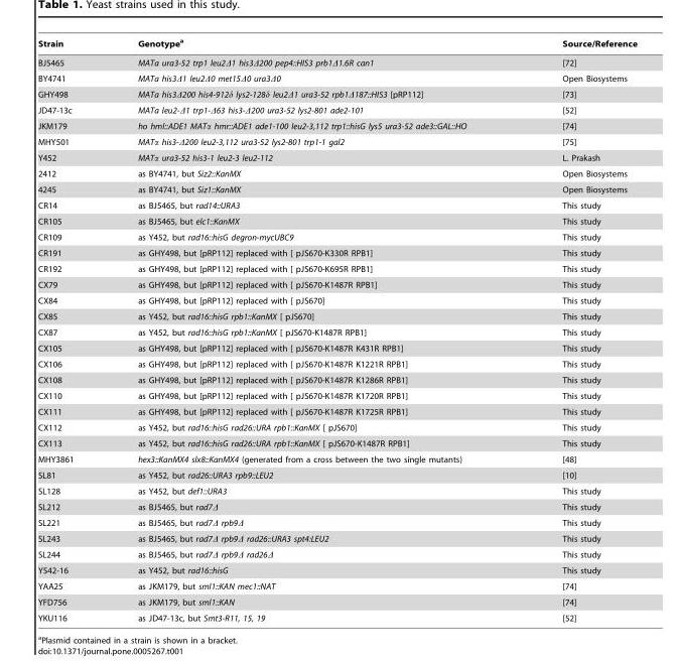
<table><thead><tr><td>Strain</td><td>Genotype<sup>a</sup></td><td>Source/Reference</td></tr></thead><tbody><tr><td>BJ5465</td><td>MATa ura3-52 trp1 leu2Δ1 his3Δ200 pep4::HIS3 prb1Δ1.6R can1</td><td>[72]</td></tr><tr><td>BY4741</td><td>MATa his3Δ1 leu2Δ0 met15Δ0 ura3Δ0</td><td>Open Biosystems</td></tr><tr><td>GHY498</td><td>MATa his3Δ200 his4-912δ lys2-128δ leu2Δ1 ura3-52 rpb1Δ187::HIS3 [pRP112]</td><td>[73]</td></tr><tr><td>JD47-13c</td><td>MATa leu2-Δ1 trp1-Δ63 his3-Δ200 ura3-52 lys2-801 ade2-101</td><td>[52]</td></tr><tr><td>JKM179</td><td>ho hml::ADE1 MATα hmr::ADE1 ade1-100 leu2-3,112 trp1::hisG lys5 ura3-52 ade3::GAL::HO</td><td>[74]</td></tr><tr><td>MHY501</td><td>MATα his3-Δ200 leu2-3,112 ura3-52 lys2-801 trp1-1 gal2</td><td>[75]</td></tr><tr><td>Y452</td><td>MATα ura3-52 his3-1 leu2-3 leu2-112</td><td>L. Prakash</td></tr><tr><td>2412</td><td>as BY4741, but Siz2::KanMX</td><td>Open Biosystems</td></tr><tr><td>4245</td><td>as BY4741, but Siz1::KanMX</td><td>Open Biosystems</td></tr><tr><td>CR14</td><td>as BJ5465, but rad14::URA3</td><td>This study</td></tr><tr><td>CR105</td><td>as BJ5465, but elc1::KanMX</td><td>This study</td></tr><tr><td>CR109</td><td>as Y452, but rad16::hisG degron-mycUBC9</td><td>This study</td></tr><tr><td>CR191</td><td>as GHY498, but [pRP112] replaced with [ pJS670-K330R RPB1]</td><td>This study</td></tr><tr><td>CR192</td><td>as GHY498, but [pRP112] replaced with [ pJS670-K695R RPB1]</td><td>This study</td></tr><tr><td>CX79</td><td>as GHY498, but [pRP112] replaced with [ pJS670-K1487R RPB1]</td><td>This study</td></tr><tr><td>CX84</td><td>as GHY498, but [pRP112] replaced with [ pJS670]</td><td>This study</td></tr><tr><td>CX85</td><td>as Y452, but rad16::hisG rpb1::KanMX [ pJS670]</td><td>This study</td></tr><tr><td>CX87</td><td>as Y452, but rad16::hisG rpb1::KanMX [ pJS670-K1487R RPB1]</td><td>This study</td></tr><tr><td>CX105</td><td>as GHY498, but [pRP112] replaced with [ pJS670-K1487R K431R RPB1]</td><td>This study</td></tr><tr><td>CX106</td><td>as GHY498, but [pRP112] replaced with [ pJS670-K1487R K1221R RPB1]</td><td>This study</td></tr><tr><td>CX108</td><td>as GHY498, but [pRP112] replaced with [ pJS670-K1487R K1286R RPB1]</td><td>This study</td></tr><tr><td>CX110</td><td>as GHY498, but [pRP112] replaced with [ pJS670-K1487R K1720R RPB1]</td><td>This study</td></tr><tr><td>CX111</td><td>as GHY498, but [pRP112] replaced with [ pJS670-K1487R K1725R RPB1]</td><td>This study</td></tr><tr><td>CX112</td><td>as Y452, but rad16::hisG rad26::URA rpb1::KanMX [ pJS670]</td><td>This study</td></tr><tr><td>CX113</td><td>as Y452, but rad16::hisG rad26::URA rpb1::KanMX [ pJS670-K1487R RPB1]</td><td>This study</td></tr><tr><td>MHY3861</td><td>hex3::KanMX4 slx8::KanMX4 (generated from a cross between the two single mutants)</td><td>[48]</td></tr><tr><td>SL81</td><td>as Y452, but rad26::URA3 rpb9::LEU2</td><td>[10]</td></tr><tr><td>SL128</td><td>as Y452, but def1::URA3</td><td>This study</td></tr><tr><td>SL212</td><td>as BJ5465, but rad7Δ</td><td>This study</td></tr><tr><td>SL221</td><td>as BJ5465, but rad7Δ rpb9Δ</td><td>This study</td></tr><tr><td>SL243</td><td>as BJ5465, but rad7Δ rpb9Δ rad26::URA3 spt4:LEU2</td><td>This study</td></tr><tr><td>SL244</td><td>as BJ5465, but rad7Δ rpb9Δ rad26Δ</td><td>This study</td></tr><tr><td>Y542-16</td><td>as Y452, but rad16::hisG</td><td>This study</td></tr><tr><td>YAA25</td><td>as JKM179, but sml1::KAN mec1::NAT</td><td>[74]</td></tr><tr><td>YFD756</td><td>as JKM179, but sml1::KAN</td><td>[74]</td></tr><tr><td>YKU116</td><td>as JD47-13c, but Smt3-R11, 15, 19</td><td>[52]</td></tr></tbody></table>